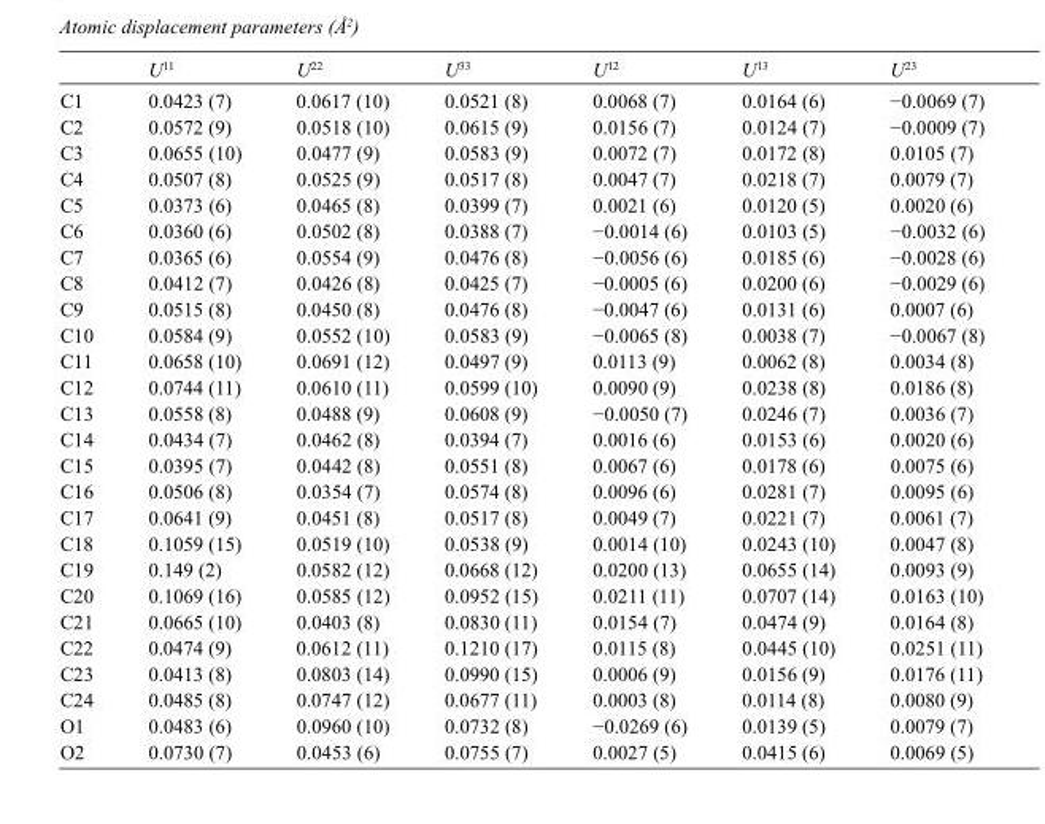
<table><thead><tr><td></td><td>U<sup>11</sup></td><td>U<sup>22</sup></td><td>U<sup>33</sup></td><td>U<sup>12</sup></td><td>U<sup>13</sup></td><td>U<sup>23</sup></td></tr></thead><tbody><tr><td>C1</td><td>0.0423 (7)</td><td>0.0617 (10)</td><td>0.0521 (8)</td><td>0.0068 (7)</td><td>0.0164 (6)</td><td>−0.0069 (7)</td></tr><tr><td>C2</td><td>0.0572 (9)</td><td>0.0518 (10)</td><td>0.0615 (9)</td><td>0.0156 (7)</td><td>0.0124 (7)</td><td>−0.0009 (7)</td></tr><tr><td>C3</td><td>0.0655 (10)</td><td>0.0477 (9)</td><td>0.0583 (9)</td><td>0.0072 (7)</td><td>0.0172 (8)</td><td>0.0105 (7)</td></tr><tr><td>C4</td><td>0.0507 (8)</td><td>0.0525 (9)</td><td>0.0517 (8)</td><td>0.0047 (7)</td><td>0.0218 (7)</td><td>0.0079 (7)</td></tr><tr><td>C5</td><td>0.0373 (6)</td><td>0.0465 (8)</td><td>0.0399 (7)</td><td>0.0021 (6)</td><td>0.0120 (5)</td><td>0.0020 (6)</td></tr><tr><td>C6</td><td>0.0360 (6)</td><td>0.0502 (8)</td><td>0.0388 (7)</td><td>−0.0014 (6)</td><td>0.0103 (5)</td><td>−0.0032 (6)</td></tr><tr><td>C7</td><td>0.0365 (6)</td><td>0.0554 (9)</td><td>0.0476 (8)</td><td>−0.0056 (6)</td><td>0.0185 (6)</td><td>−0.0028 (6)</td></tr><tr><td>C8</td><td>0.0412 (7)</td><td>0.0426 (8)</td><td>0.0425 (7)</td><td>−0.0005 (6)</td><td>0.0200 (6)</td><td>−0.0029 (6)</td></tr><tr><td>C9</td><td>0.0515 (8)</td><td>0.0450 (8)</td><td>0.0476 (8)</td><td>−0.0047 (6)</td><td>0.0131 (6)</td><td>0.0007 (6)</td></tr><tr><td>C10</td><td>0.0584 (9)</td><td>0.0552 (10)</td><td>0.0583 (9)</td><td>−0.0065 (8)</td><td>0.0038 (7)</td><td>−0.0067 (8)</td></tr><tr><td>C11</td><td>0.0658 (10)</td><td>0.0691 (12)</td><td>0.0497 (9)</td><td>0.0113 (9)</td><td>0.0062 (8)</td><td>0.0034 (8)</td></tr><tr><td>C12</td><td>0.0744 (11)</td><td>0.0610 (11)</td><td>0.0599 (10)</td><td>0.0090 (9)</td><td>0.0238 (8)</td><td>0.0186 (8)</td></tr><tr><td>C13</td><td>0.0558 (8)</td><td>0.0488 (9)</td><td>0.0608 (9)</td><td>−0.0050 (7)</td><td>0.0246 (7)</td><td>0.0036 (7)</td></tr><tr><td>C14</td><td>0.0434 (7)</td><td>0.0462 (8)</td><td>0.0394 (7)</td><td>0.0016 (6)</td><td>0.0153 (6)</td><td>0.0020 (6)</td></tr><tr><td>C15</td><td>0.0395 (7)</td><td>0.0442 (8)</td><td>0.0551 (8)</td><td>0.0067 (6)</td><td>0.0178 (6)</td><td>0.0075 (6)</td></tr><tr><td>C16</td><td>0.0506 (8)</td><td>0.0354 (7)</td><td>0.0574 (8)</td><td>0.0096 (6)</td><td>0.0281 (7)</td><td>0.0095 (6)</td></tr><tr><td>C17</td><td>0.0641 (9)</td><td>0.0451 (8)</td><td>0.0517 (8)</td><td>0.0049 (7)</td><td>0.0221 (7)</td><td>0.0061 (7)</td></tr><tr><td>C18</td><td>0.1059 (15)</td><td>0.0519 (10)</td><td>0.0538 (9)</td><td>0.0014 (10)</td><td>0.0243 (10)</td><td>0.0047 (8)</td></tr><tr><td>C19</td><td>0.149 (2)</td><td>0.0582 (12)</td><td>0.0668 (12)</td><td>0.0200 (13)</td><td>0.0655 (14)</td><td>0.0093 (9)</td></tr><tr><td>C20</td><td>0.1069 (16)</td><td>0.0585 (12)</td><td>0.0952 (15)</td><td>0.0211 (11)</td><td>0.0707 (14)</td><td>0.0163 (10)</td></tr><tr><td>C21</td><td>0.0665 (10)</td><td>0.0403 (8)</td><td>0.0830 (11)</td><td>0.0154 (7)</td><td>0.0474 (9)</td><td>0.0164 (8)</td></tr><tr><td>C22</td><td>0.0474 (9)</td><td>0.0612 (11)</td><td>0.1210 (17)</td><td>0.0115 (8)</td><td>0.0445 (10)</td><td>0.0251 (11)</td></tr><tr><td>C23</td><td>0.0413 (8)</td><td>0.0803 (14)</td><td>0.0990 (15)</td><td>0.0006 (9)</td><td>0.0156 (9)</td><td>0.0176 (11)</td></tr><tr><td>C24</td><td>0.0485 (8)</td><td>0.0747 (12)</td><td>0.0677 (11)</td><td>0.0003 (8)</td><td>0.0114 (8)</td><td>0.0080 (9)</td></tr><tr><td>O1</td><td>0.0483 (6)</td><td>0.0960 (10)</td><td>0.0732 (8)</td><td>−0.0269 (6)</td><td>0.0139 (5)</td><td>0.0079 (7)</td></tr><tr><td>O2</td><td>0.0730 (7)</td><td>0.0453 (6)</td><td>0.0755 (7)</td><td>0.0027 (5)</td><td>0.0415 (6)</td><td>0.0069 (5)</td></tr></tbody></table>